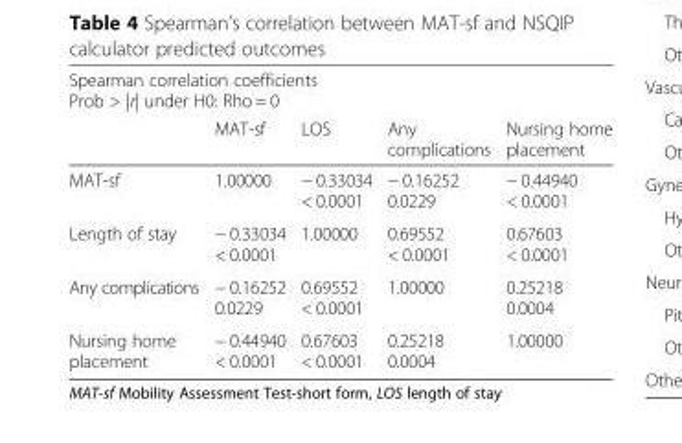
<table><thead><tr><td colspan="5">Spearman correlation coefficients Prob &gt; |r| under H0: Rho = 0</td></tr><tr><td></td><td>MAT-sf</td><td>LOS</td><td>Any complications</td><td>Nursing home placement</td></tr></thead><tbody><tr><td>MAT-sf</td><td>1.00000</td><td>− 0.33034 &lt; 0.0001</td><td>− 0.16252 0.0229</td><td>− 0.44940 &lt; 0.0001</td></tr><tr><td>Length of stay</td><td>− 0.33034 &lt; 0.0001</td><td>1.00000</td><td>0.69552 &lt; 0.0001</td><td>0.67603 &lt; 0.0001</td></tr><tr><td>Any complications</td><td>− 0.16252 0.0229</td><td>0.69552 &lt; 0.0001</td><td>1.00000</td><td>0.25218 0.0004</td></tr><tr><td>Nursing home placement</td><td>− 0.44940 &lt; 0.0001</td><td>0.67603 &lt; 0.0001</td><td>0.25218 0.0004</td><td>1.00000</td></tr></tbody></table>